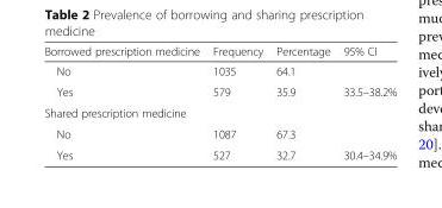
<table><thead><tr><td>Borrowed prescription medicine</td><td>Frequency</td><td>Percentage</td><td>95% CI</td></tr></thead><tbody><tr><td>No</td><td>1035</td><td>64.1</td><td></td></tr><tr><td>Yes</td><td>579</td><td>35.9</td><td>33.5–38.2%</td></tr><tr><td colspan="4">Shared prescription medicine</td></tr><tr><td>No</td><td>1087</td><td>67.3</td><td></td></tr><tr><td>Yes</td><td>527</td><td>32.7</td><td>30.4–34.9%</td></tr></tbody></table>